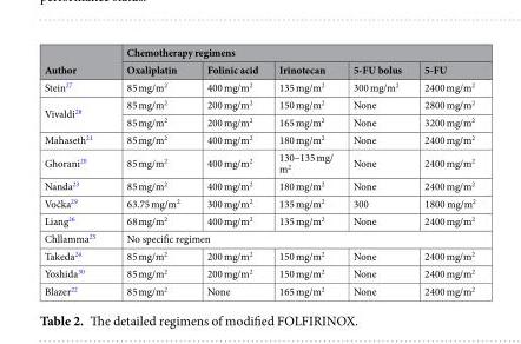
<table><thead><tr><td rowspan="2">Author</td><td colspan="5">Chemotherapy regimens</td></tr><tr><td>Oxaliplatin</td><td>Folinic acid</td><td>Irinotecan</td><td>5-FU bolus</td><td>5-FU</td></tr></thead><tbody><tr><td>Stein<sup>27</sup></td><td>85 mg/m<sup>2</sup></td><td>400 mg/m<sup>2</sup></td><td>135 mg/m<sup>2</sup></td><td>300 mg/m<sup>2</sup></td><td>2400 mg/m<sup>2</sup></td></tr><tr><td rowspan="2">Vivaldi<sup>28</sup></td><td>85 mg/m<sup>2</sup></td><td>200 mg/m<sup>2</sup></td><td>150 mg/m<sup>2</sup></td><td>None</td><td>2800 mg/m<sup>2</sup></td></tr><tr><td>85 mg/m<sup>2</sup></td><td>200 mg/m<sup>2</sup></td><td>165 mg/m<sup>2</sup></td><td>None</td><td>3200 mg/m<sup>2</sup></td></tr><tr><td>Mahaseth<sup>21</sup></td><td>85 mg/m<sup>2</sup></td><td>400 mg/m<sup>2</sup></td><td>180 mg/m<sup>2</sup></td><td>None</td><td>2400 mg/m<sup>2</sup></td></tr><tr><td>Ghorani<sup>20</sup></td><td>85 mg/m<sup>2</sup></td><td>400 mg/m<sup>2</sup></td><td>130–135 mg/ m<sup>2</sup></td><td>None</td><td>2400 mg/m<sup>2</sup></td></tr><tr><td>Nanda<sup>23</sup></td><td>85 mg/m<sup>2</sup></td><td>400 mg/m<sup>2</sup></td><td>180 mg/m<sup>2</sup></td><td>None</td><td>2400 mg/m<sup>2</sup></td></tr><tr><td>Vočka<sup>29</sup></td><td>63.75 mg/m<sup>2</sup></td><td>300 mg/m<sup>2</sup></td><td>135 mg/m<sup>2</sup></td><td>300</td><td>1800 mg/m<sup>2</sup></td></tr><tr><td>Liang<sup>26</sup></td><td>68 mg/m<sup>2</sup></td><td>400 mg/m<sup>2</sup></td><td>135 mg/m<sup>2</sup></td><td>None</td><td>2400 mg/m<sup>2</sup></td></tr><tr><td>Chllamma<sup>25</sup></td><td colspan="5">No specific regimen</td></tr><tr><td>Takeda<sup>24</sup></td><td>85 mg/m<sup>2</sup></td><td>200 mg/m<sup>2</sup></td><td>150 mg/m<sup>2</sup></td><td>None</td><td>2400 mg/m<sup>2</sup></td></tr><tr><td>Yoshida<sup>30</sup></td><td>85 mg/m<sup>2</sup></td><td>200 mg/m<sup>2</sup></td><td>150 mg/m<sup>2</sup></td><td>None</td><td>2400 mg/m<sup>2</sup></td></tr><tr><td>Blazer<sup>22</sup></td><td>85 mg/m<sup>2</sup></td><td>None</td><td>165 mg/m<sup>2</sup></td><td>None</td><td>2400 mg/m<sup>2</sup></td></tr></tbody></table>